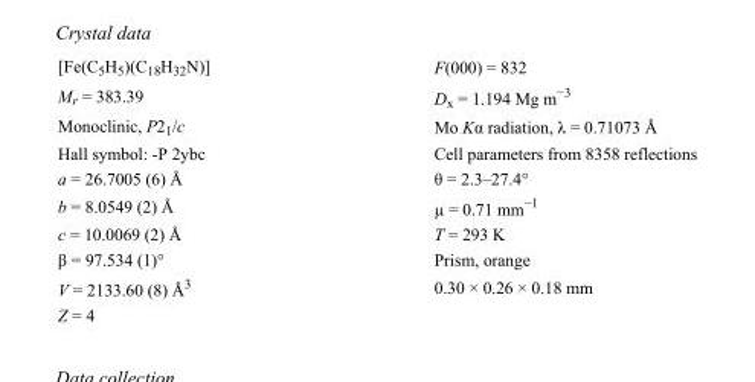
<table><tbody><tr><td>[Fe(C<sub>5</sub>H<sub>5</sub>)(C<sub>18</sub>H<sub>32</sub>N)]</td><td>F(000) = 832</td></tr><tr><td>M<sub>r</sub> = 383.39</td><td>D<sub>x</sub> = 1.194 Mg m<sup>−3</sup></td></tr><tr><td>Monoclinic, P2<sub>1</sub>/c</td><td>Mo Kα radiation, λ = 0.71073 Å</td></tr><tr><td>Hall symbol: -P 2ybc</td><td>Cell parameters from 8358 reflections</td></tr><tr><td>a = 26.7005 (6) Å</td><td>θ = 2.3–27.4°</td></tr><tr><td>b = 8.0549 (2) Å</td><td>µ = 0.71 mm<sup>−1</sup></td></tr><tr><td>c = 10.0069 (2) Å</td><td>T = 293 K</td></tr><tr><td>β = 97.534 (1)°</td><td>Prism, orange</td></tr><tr><td>V = 2133.60 (8) Å<sup>3</sup></td><td>0.30 × 0.26 × 0.18 mm</td></tr><tr><td>Z = 4</td><td></td></tr></tbody></table>